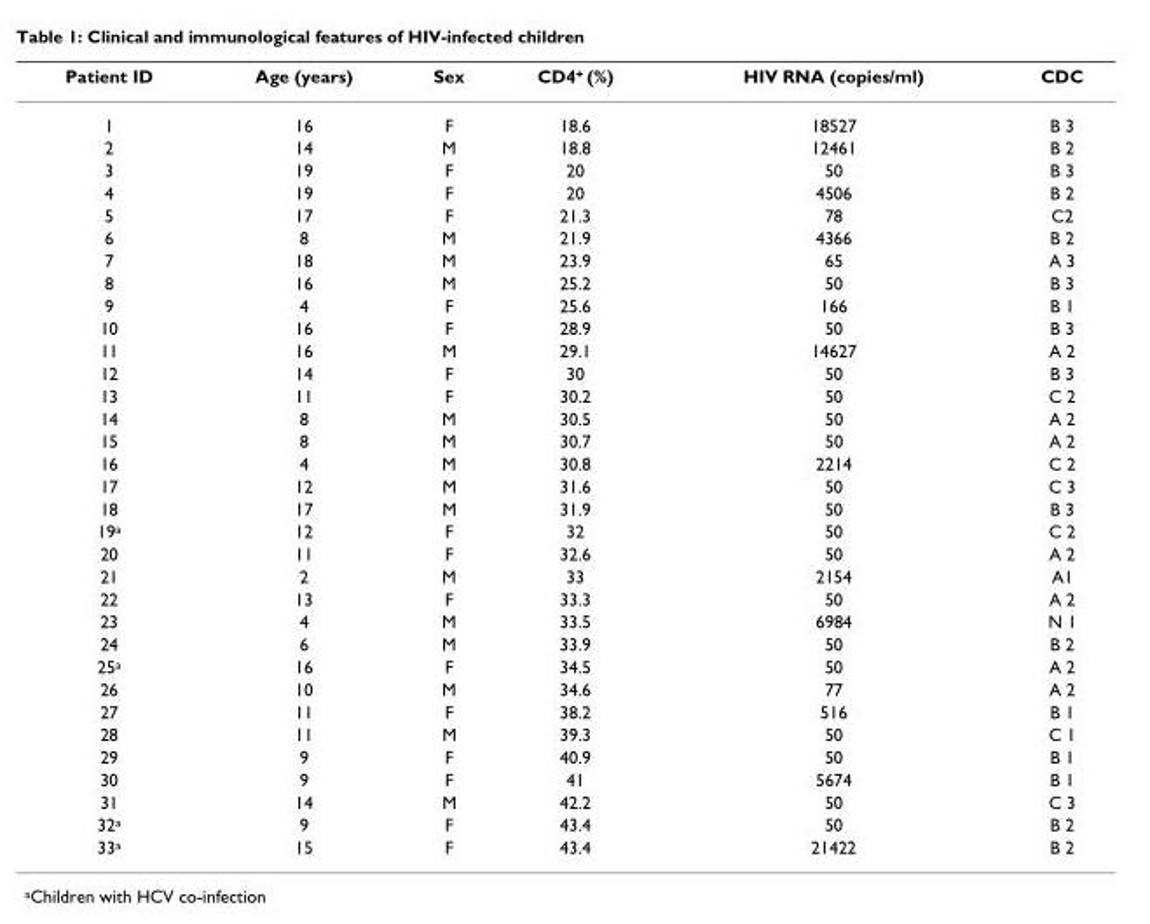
<table><thead><tr><td>Patient ID</td><td>Age (years)</td><td>Sex</td><td>CD4<sup>+</sup> (%)</td><td>HIV RNA (copies/ml)</td><td>CDC</td></tr></thead><tbody><tr><td>1</td><td>16</td><td>F</td><td>18.6</td><td>18527</td><td>B 3</td></tr><tr><td>2</td><td>14</td><td>M</td><td>18.8</td><td>12461</td><td>B 2</td></tr><tr><td>3</td><td>19</td><td>F</td><td>20</td><td>50</td><td>B 3</td></tr><tr><td>4</td><td>19</td><td>F</td><td>20</td><td>4506</td><td>B 2</td></tr><tr><td>5</td><td>17</td><td>F</td><td>21.3</td><td>78</td><td>C2</td></tr><tr><td>6</td><td>8</td><td>M</td><td>21.9</td><td>4366</td><td>B 2</td></tr><tr><td>7</td><td>18</td><td>M</td><td>23.9</td><td>65</td><td>A 3</td></tr><tr><td>8</td><td>16</td><td>M</td><td>25.2</td><td>50</td><td>B 3</td></tr><tr><td>9</td><td>4</td><td>F</td><td>25.6</td><td>166</td><td>B 1</td></tr><tr><td>10</td><td>16</td><td>F</td><td>28.9</td><td>50</td><td>B 3</td></tr><tr><td>11</td><td>16</td><td>M</td><td>29.1</td><td>14627</td><td>A 2</td></tr><tr><td>12</td><td>14</td><td>F</td><td>30</td><td>50</td><td>B 3</td></tr><tr><td>13</td><td>11</td><td>F</td><td>30.2</td><td>50</td><td>C 2</td></tr><tr><td>14</td><td>8</td><td>M</td><td>30.5</td><td>50</td><td>A 2</td></tr><tr><td>15</td><td>8</td><td>M</td><td>30.7</td><td>50</td><td>A 2</td></tr><tr><td>16</td><td>4</td><td>M</td><td>30.8</td><td>2214</td><td>C 2</td></tr><tr><td>17</td><td>12</td><td>M</td><td>31.6</td><td>50</td><td>C 3</td></tr><tr><td>18</td><td>17</td><td>M</td><td>31.9</td><td>50</td><td>B 3</td></tr><tr><td>19<sup>a</sup></td><td>12</td><td>F</td><td>32</td><td>50</td><td>C 2</td></tr><tr><td>20</td><td>11</td><td>F</td><td>32.6</td><td>50</td><td>A 2</td></tr><tr><td>21</td><td>2</td><td>M</td><td>33</td><td>2154</td><td>A1</td></tr><tr><td>22</td><td>13</td><td>F</td><td>33.3</td><td>50</td><td>A 2</td></tr><tr><td>23</td><td>4</td><td>M</td><td>33.5</td><td>6984</td><td>N 1</td></tr><tr><td>24</td><td>6</td><td>M</td><td>33.9</td><td>50</td><td>B 2</td></tr><tr><td>25<sup>a</sup></td><td>16</td><td>F</td><td>34.5</td><td>50</td><td>A 2</td></tr><tr><td>26</td><td>10</td><td>M</td><td>34.6</td><td>77</td><td>A 2</td></tr><tr><td>27</td><td>11</td><td>F</td><td>38.2</td><td>516</td><td>B 1</td></tr><tr><td>28</td><td>11</td><td>M</td><td>39.3</td><td>50</td><td>C 1</td></tr><tr><td>29</td><td>9</td><td>F</td><td>40.9</td><td>50</td><td>B 1</td></tr><tr><td>30</td><td>9</td><td>F</td><td>41</td><td>5674</td><td>B 1</td></tr><tr><td>31</td><td>14</td><td>M</td><td>42.2</td><td>50</td><td>C 3</td></tr><tr><td>32<sup>a</sup></td><td>9</td><td>F</td><td>43.4</td><td>50</td><td>B 2</td></tr><tr><td>33<sup>a</sup></td><td>15</td><td>F</td><td>43.4</td><td>21422</td><td>B 2</td></tr></tbody></table>